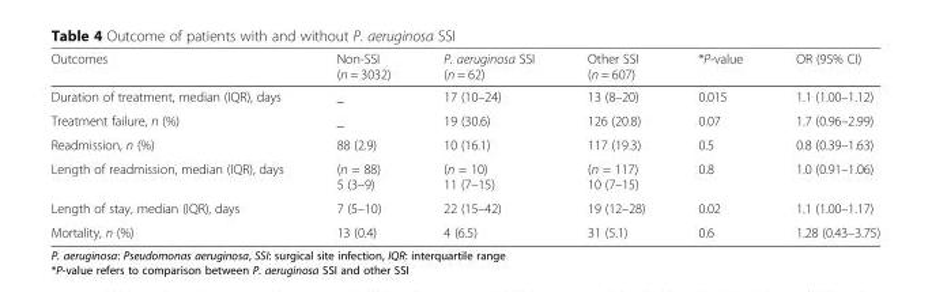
<table><thead><tr><td>Outcomes</td><td>Non-SSI (n = 3032)</td><td>P. aeruginosa SSI (n = 62)</td><td>Other SSI (n = 607)</td><td>*P-value</td><td>OR (95% CI)</td></tr></thead><tbody><tr><td>Duration of treatment, median (IQR), days</td><td>_</td><td>17 (10–24)</td><td>13 (8–20)</td><td>0.015</td><td>1.1 (1.00–1.12)</td></tr><tr><td>Treatment failure, n (%)</td><td>_</td><td>19 (30.6)</td><td>126 (20.8)</td><td>0.07</td><td>1.7 (0.96–2.99)</td></tr><tr><td>Readmission, n (%)</td><td>88 (2.9)</td><td>10 (16.1)</td><td>117 (19.3)</td><td>0.5</td><td>0.8 (0.39–1.63)</td></tr><tr><td>Length of readmission, median (IQR), days</td><td>(n = 88) 5 (3–9)</td><td>(n = 10) 11 (7–15)</td><td>(n = 117) 10 (7–15)</td><td>0.8</td><td>1.0 (0.91–1.06)</td></tr><tr><td>Length of stay, median (IQR), days</td><td>7 (5–10)</td><td>22 (15–42)</td><td>19 (12–28)</td><td>0.02</td><td>1.1 (1.00–1.17)</td></tr><tr><td>Mortality, n (%)</td><td>13 (0.4)</td><td>4 (6.5)</td><td>31 (5.1)</td><td>0.6</td><td>1.28 (0.43–3.75)</td></tr></tbody></table>